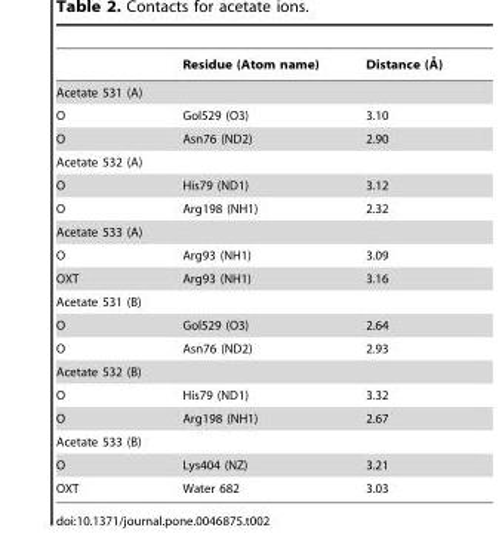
<table><thead><tr><td></td><td>Residue (Atom name)</td><td>Distance (A˚ )</td></tr></thead><tbody><tr><td colspan="3">Acetate 531 (A)</td></tr><tr><td>O</td><td>Gol529 (O3)</td><td>3.10</td></tr><tr><td>O</td><td>Asn76 (ND2)</td><td>2.90</td></tr><tr><td colspan="3">Acetate 532 (A)</td></tr><tr><td>O</td><td>His79 (ND1)</td><td>3.12</td></tr><tr><td>O</td><td>Arg198 (NH1)</td><td>2.32</td></tr><tr><td colspan="3">Acetate 533 (A)</td></tr><tr><td>O</td><td>Arg93 (NH1)</td><td>3.09</td></tr><tr><td>OXT</td><td>Arg93 (NH1)</td><td>3.16</td></tr><tr><td colspan="3">Acetate 531 (B)</td></tr><tr><td>O</td><td>Gol529 (O3)</td><td>2.64</td></tr><tr><td>O</td><td>Asn76 (ND2)</td><td>2.93</td></tr><tr><td colspan="3">Acetate 532 (B)</td></tr><tr><td>O</td><td>His79 (ND1)</td><td>3.32</td></tr><tr><td>O</td><td>Arg198 (NH1)</td><td>2.67</td></tr><tr><td colspan="3">Acetate 533 (B)</td></tr><tr><td>O</td><td>Lys404 (NZ)</td><td>3.21</td></tr><tr><td>OXT</td><td>Water 682</td><td>3.03</td></tr></tbody></table>